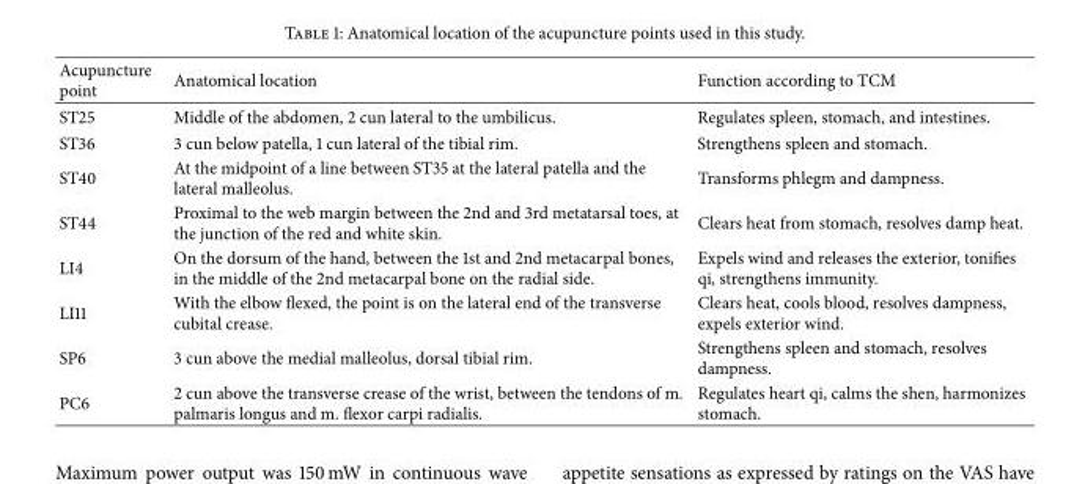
<table><thead><tr><td>Acupuncture point</td><td>Anatomical location</td><td>Function according to TCM</td></tr></thead><tbody><tr><td>ST25</td><td>Middle of the abdomen, 2 cun lateral to the umbilicus.</td><td>Regulates spleen, stomach, and intestines.</td></tr><tr><td>ST36</td><td>3 cun below patella, 1 cun lateral of the tibial rim.</td><td>Strengthens spleen and stomach.</td></tr><tr><td>ST40</td><td>At the midpoint of a line between ST35 at the lateral patella and the lateral malleolus.</td><td>Transforms phlegm and dampness.</td></tr><tr><td>ST44</td><td>Proximal to the web margin between the 2nd and 3rd metatarsal toes, at the junction of the red and white skin.</td><td>Clears heat from stomach, resolves damp heat.</td></tr><tr><td>LI4</td><td>On the dorsum of the hand, between the 1st and 2nd metacarpal bones, in the middle of the 2nd metacarpal bone on the radial side.</td><td>Expels wind and releases the exterior, tonifies qi, strengthens immunity.</td></tr><tr><td>LI11</td><td>With the elbow flexed, the point is on the lateral end of the transverse cubital crease.</td><td>Clears heat, cools blood, resolves dampness, expels exterior wind.</td></tr><tr><td>SP6</td><td>3 cun above the medial malleolus, dorsal tibial rim.</td><td>Strengthens spleen and stomach, resolves dampness.</td></tr><tr><td>PC6</td><td>2 cun above the transverse crease of the wrist, between the tendons of m. palmaris longus and m. flexor carpi radialis.</td><td>Regulates heart qi, calms the shen, harmonizes stomach.</td></tr></tbody></table>